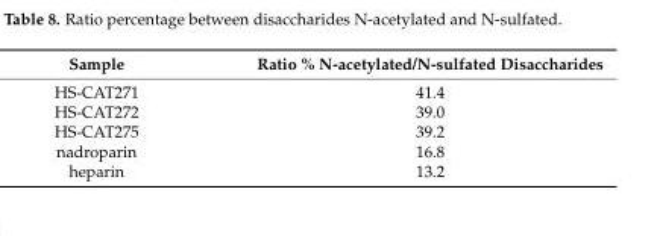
<table><thead><tr><td>Sample</td><td>Ratio % N-acetylated/N-sulfated Disaccharides</td></tr></thead><tbody><tr><td>HS-CAT271</td><td>41.4</td></tr><tr><td>HS-CAT272</td><td>39.0</td></tr><tr><td>HS-CAT275</td><td>39.2</td></tr><tr><td>nadroparin</td><td>16.8</td></tr><tr><td>heparin</td><td>13.2</td></tr></tbody></table>